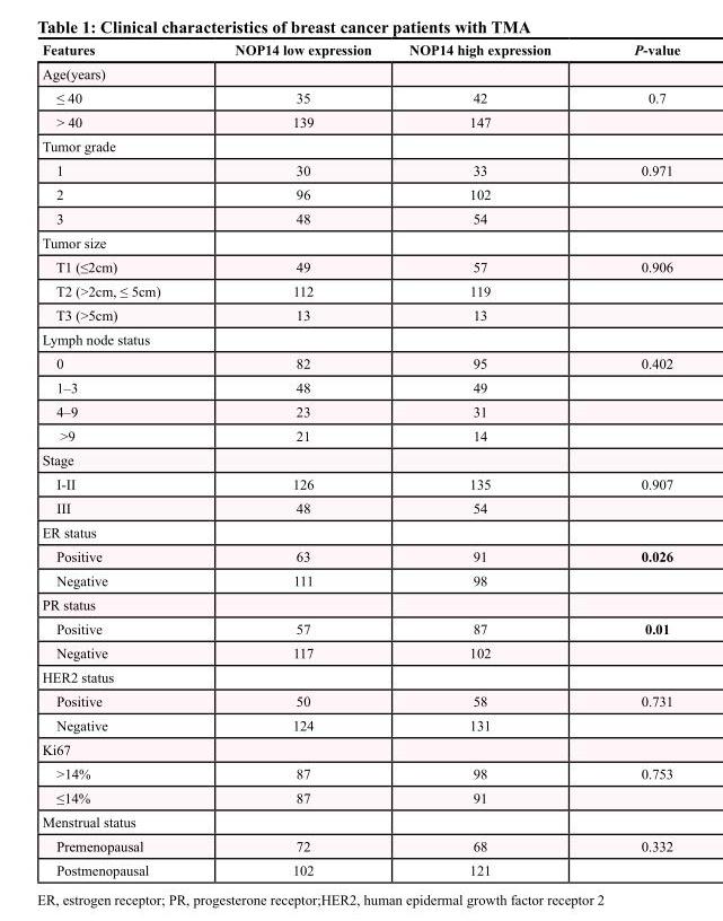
<table><thead><tr><td>Features</td><td>NOP14 low expression</td><td>NOP14 high expression</td><td>P-value</td></tr></thead><tbody><tr><td colspan="4">Age(years)</td></tr><tr><td>≤ 40</td><td>35</td><td>42</td><td>0.7</td></tr><tr><td>&gt; 40</td><td>139</td><td>147</td><td></td></tr><tr><td colspan="4">Tumor grade</td></tr><tr><td>1</td><td>30</td><td>33</td><td>0.971</td></tr><tr><td>2</td><td>96</td><td>102</td><td></td></tr><tr><td>3</td><td>48</td><td>54</td><td></td></tr><tr><td colspan="4">Tumor size</td></tr><tr><td>T1 (≤2cm)</td><td>49</td><td>57</td><td>0.906</td></tr><tr><td>T2 (&gt;2cm, ≤ 5cm)</td><td>112</td><td>119</td><td></td></tr><tr><td>T3 (&gt;5cm)</td><td>13</td><td>13</td><td></td></tr><tr><td colspan="4">Lymph node status</td></tr><tr><td>0</td><td>82</td><td>95</td><td>0.402</td></tr><tr><td>1–3</td><td>48</td><td>49</td><td></td></tr><tr><td>4–9</td><td>23</td><td>31</td><td></td></tr><tr><td>&gt;9</td><td>21</td><td>14</td><td></td></tr><tr><td colspan="4">Stage</td></tr><tr><td>I-II</td><td>126</td><td>135</td><td>0.907</td></tr><tr><td>III</td><td>48</td><td>54</td><td></td></tr><tr><td colspan="4">ER status</td></tr><tr><td>Positive</td><td>63</td><td>91</td><td>0.026</td></tr><tr><td>Negative</td><td>111</td><td>98</td><td></td></tr><tr><td colspan="4">PR status</td></tr><tr><td>Positive</td><td>57</td><td>87</td><td>0.01</td></tr><tr><td>Negative</td><td>117</td><td>102</td><td></td></tr><tr><td colspan="4">HER2 status</td></tr><tr><td>Positive</td><td>50</td><td>58</td><td>0.731</td></tr><tr><td>Negative</td><td>124</td><td>131</td><td></td></tr><tr><td colspan="4">Ki67</td></tr><tr><td>&gt;14%</td><td>87</td><td>98</td><td>0.753</td></tr><tr><td>≤14%</td><td>87</td><td>91</td><td></td></tr><tr><td colspan="4">Menstrual status</td></tr><tr><td>Premenopausal</td><td>72</td><td>68</td><td>0.332</td></tr><tr><td>Postmenopausal</td><td>102</td><td>121</td><td></td></tr></tbody></table>